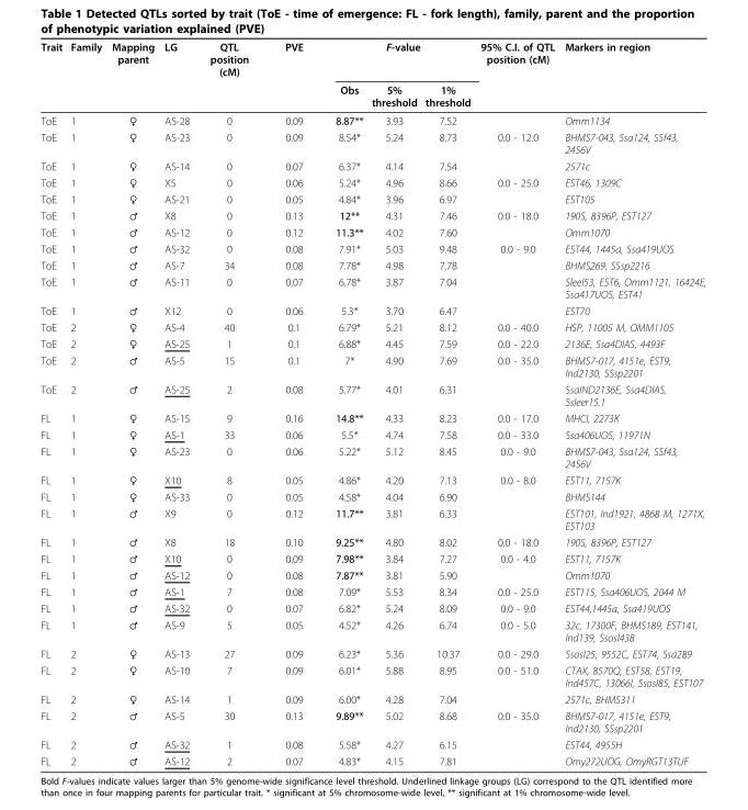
<table><thead><tr><td rowspan="2">Trait</td><td rowspan="2">Family</td><td rowspan="2">Mapping parent</td><td rowspan="2">LG</td><td rowspan="2">QTL position (cM)</td><td rowspan="2">PVE</td><td colspan="3">F-value</td><td rowspan="2">95% C.I. of QTL position (cM)</td><td rowspan="2">Markers in region</td></tr><tr><td>Obs</td><td>5% threshold</td><td>1% threshold</td></tr></thead><tbody><tr><td>ToE</td><td>1</td><td>♀</td><td>AS-28</td><td>0</td><td>0.09</td><td>8.87**</td><td>3.93</td><td>7.52</td><td></td><td>Omm1134</td></tr><tr><td>ToE</td><td>1</td><td>♀</td><td>AS-23</td><td>0</td><td>0.09</td><td>8.54*</td><td>5.24</td><td>8.73</td><td>0.0 - 12.0</td><td>BHMS7-043, Ssa124, SSf43, 2456V</td></tr><tr><td>ToE</td><td>1</td><td>♀</td><td>AS-14</td><td>0</td><td>0.07</td><td>6.37*</td><td>4.14</td><td>7.54</td><td></td><td>2571c</td></tr><tr><td>ToE</td><td>1</td><td>♀</td><td>X5</td><td>0</td><td>0.06</td><td>5.24*</td><td>4.96</td><td>8.66</td><td>0.0 - 25.0</td><td>EST46, 1309C</td></tr><tr><td>ToE</td><td>1</td><td>♀</td><td>AS-21</td><td>0</td><td>0.05</td><td>4.84*</td><td>3.96</td><td>6.97</td><td></td><td>EST105</td></tr><tr><td>ToE</td><td>1</td><td>♂</td><td>X8</td><td>0</td><td>0.13</td><td>12**</td><td>4.31</td><td>7.46</td><td>0.0 - 18.0</td><td>190S, 8396P, EST127</td></tr><tr><td>ToE</td><td>1</td><td>♂</td><td>AS-12</td><td>0</td><td>0.12</td><td>11.3**</td><td>4.02</td><td>7.60</td><td></td><td>Omm1070</td></tr><tr><td>ToE</td><td>1</td><td>♂</td><td>AS-32</td><td>0</td><td>0.08</td><td>7.91*</td><td>5.03</td><td>9.48</td><td>0.0 - 9.0</td><td>EST44, 1445a, Ssa419UOS</td></tr><tr><td>ToE</td><td>1</td><td>♂</td><td>AS-7</td><td>34</td><td>0.08</td><td>7.78*</td><td>4.98</td><td>7.78</td><td></td><td>BHMS269, SSsp2216</td></tr><tr><td>ToE</td><td>1</td><td>♂</td><td>AS-11</td><td>0</td><td>0.07</td><td>6.78*</td><td>3.87</td><td>7.04</td><td></td><td>Sleel53, EST6, Omm1121, 16424E, Ssa417UOS, EST41</td></tr><tr><td>ToE</td><td>1</td><td>♂</td><td>X12</td><td>0</td><td>0.06</td><td>5.3*</td><td>3.70</td><td>6.47</td><td></td><td>EST70</td></tr><tr><td>ToE</td><td>2</td><td>♀</td><td>AS-4</td><td>40</td><td>0.1</td><td>6.79*</td><td>5.21</td><td>8.12</td><td>0.0 - 40.0</td><td>HSP, 11005 M, OMM1105</td></tr><tr><td>ToE</td><td>2</td><td>♀</td><td>AS-25</td><td>1</td><td>0.1</td><td>6.88*</td><td>4.45</td><td>7.59</td><td>0.0 - 22.0</td><td>2136E, Ssa4DIAS, 4493F</td></tr><tr><td>ToE</td><td>2</td><td>♂</td><td>AS-5</td><td>15</td><td>0.1</td><td>7*</td><td>4.90</td><td>7.69</td><td>0.0 - 35.0</td><td>BHMS7-017, 4151e, EST9, Ind2130, SSsp2201</td></tr><tr><td>ToE</td><td>2</td><td>♂</td><td>AS-25</td><td>2</td><td>0.08</td><td>5.77*</td><td>4.01</td><td>6.31</td><td></td><td>SsaIND2136E, Ssa4DIAS, Ssleer15.1</td></tr><tr><td>FL</td><td>1</td><td>♀</td><td>AS-15</td><td>9</td><td>0.16</td><td>14.8**</td><td>4.33</td><td>8.23</td><td>0.0 - 17.0</td><td>MHCI, 2273K</td></tr><tr><td>FL</td><td>1</td><td>♀</td><td>AS-1</td><td>33</td><td>0.06</td><td>5.5*</td><td>4.74</td><td>7.58</td><td>0.0 - 33.0</td><td>Ssa406UOS, 11971N</td></tr><tr><td>FL</td><td>1</td><td>♀</td><td>AS-23</td><td>0</td><td>0.06</td><td>5.22*</td><td>5.12</td><td>8.45</td><td>0.0 - 9.0</td><td>BHMS7-043, Ssa124, SSf43, 2456V</td></tr><tr><td>FL</td><td>1</td><td>♀</td><td>X10</td><td>8</td><td>0.05</td><td>4.86*</td><td>4.20</td><td>7.13</td><td>0.0 - 8.0</td><td>EST11, 7157K</td></tr><tr><td>FL</td><td>1</td><td>♀</td><td>AS-33</td><td>0</td><td>0.05</td><td>4.58*</td><td>4.04</td><td>6.90</td><td></td><td>BHMS144</td></tr><tr><td>FL</td><td>1</td><td>♂</td><td>X9</td><td>0</td><td>0.12</td><td>11.7**</td><td>3.81</td><td>6.33</td><td></td><td>EST101, Ind1921, 4868 M, 1271X, EST103</td></tr><tr><td>FL</td><td>1</td><td>♂</td><td>X8</td><td>18</td><td>0.10</td><td>9.25**</td><td>4.80</td><td>8.02</td><td>0.0 - 18.0</td><td>190S, 8396P, EST127</td></tr><tr><td>FL</td><td>1</td><td>♂</td><td>X10</td><td>0</td><td>0.09</td><td>7.98**</td><td>3.84</td><td>7.27</td><td>0.0 - 4.0</td><td>EST11, 7157K</td></tr><tr><td>FL</td><td>1</td><td>♂</td><td>AS-12</td><td>0</td><td>0.08</td><td>7.87**</td><td>3.81</td><td>5.90</td><td></td><td>Omm1070</td></tr><tr><td>FL</td><td>1</td><td>♂</td><td>AS-1</td><td>7</td><td>0.08</td><td>7.09*</td><td>5.53</td><td>8.34</td><td>0.0 - 25.0</td><td>EST115, Ssa406UOS, 2044 M</td></tr><tr><td>FL</td><td>1</td><td>♂</td><td>AS-32</td><td>0</td><td>0.07</td><td>6.82*</td><td>5.24</td><td>8.09</td><td>0.0 - 9.0</td><td>EST44,1445a, Ssa419UOS</td></tr><tr><td>FL</td><td>1</td><td>♂</td><td>AS-9</td><td>5</td><td>0.05</td><td>4.52*</td><td>4.26</td><td>6.74</td><td>0.0 - 5.0</td><td>32c, 17300F, BHMS189, EST141, Ind139, Ssosl438</td></tr><tr><td>FL</td><td>2</td><td>♀</td><td>AS-13</td><td>27</td><td>0.09</td><td>6.23*</td><td>5.36</td><td>10.37</td><td>0.0 - 29.0</td><td>Ssosl25, 9552C, EST74, Ssa289</td></tr><tr><td>FL</td><td>2</td><td>♀</td><td>AS-10</td><td>7</td><td>0.09</td><td>6.01*</td><td>5.88</td><td>8.95</td><td>0.0 - 51.0</td><td>CTAX, 8570Q, EST58, EST19, Ind457C, 13066I, Ssosl85, EST107</td></tr><tr><td>FL</td><td>2</td><td>♀</td><td>AS-14</td><td>1</td><td>0.09</td><td>6.00*</td><td>4.28</td><td>7.04</td><td></td><td>2571c, BHMS311</td></tr><tr><td>FL</td><td>2</td><td>♂</td><td>AS-5</td><td>30</td><td>0.13</td><td>9.89**</td><td>5.02</td><td>8.68</td><td>0.0 - 35.0</td><td>BHMS7-017, 4151e, EST9, Ind2130, SSsp2201</td></tr><tr><td>FL</td><td>2</td><td>♂</td><td>AS-32</td><td>1</td><td>0.08</td><td>5.58*</td><td>4.27</td><td>6.15</td><td></td><td>EST44, 4955H</td></tr><tr><td>FL</td><td>2</td><td>♂</td><td>AS-12</td><td>2</td><td>0.07</td><td>4.83*</td><td>4.15</td><td>7.81</td><td></td><td>Omy272UOG, OmyRGT13TUF</td></tr></tbody></table>